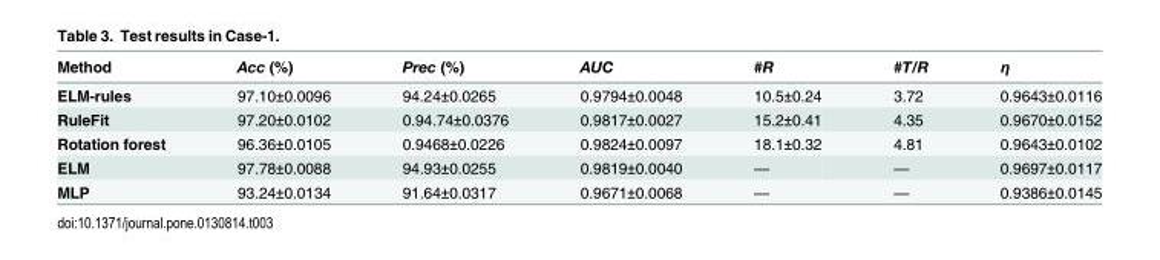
<table><thead><tr><td>Method</td><td>Acc (%)</td><td>Prec (%)</td><td>AUC</td><td>#R</td><td>#T/R</td><td>η</td></tr></thead><tbody><tr><td>ELM-rules</td><td>97.10±0.0096</td><td>94.24±0.0265</td><td>0.9794±0.0048</td><td>10.5±0.24</td><td>3.72</td><td>0.9643±0.0116</td></tr><tr><td>RuleFit</td><td>97.20±0.0102</td><td>0.94.74±0.0376</td><td>0.9817±0.0027</td><td>15.2±0.41</td><td>4.35</td><td>0.9670±0.0152</td></tr><tr><td>Rotation forest</td><td>96.36±0.0105</td><td>0.9468±0.0226</td><td>0.9824±0.0097</td><td>18.1±0.32</td><td>4.81</td><td>0.9643±0.0102</td></tr><tr><td>ELM</td><td>97.78±0.0088</td><td>94.93±0.0255</td><td>0.9819±0.0040</td><td>—</td><td>—</td><td>0.9697±0.0117</td></tr><tr><td>MLP</td><td>93.24±0.0134</td><td>91.64±0.0317</td><td>0.9671±0.0068</td><td>—</td><td>—</td><td>0.9386±0.0145</td></tr></tbody></table>